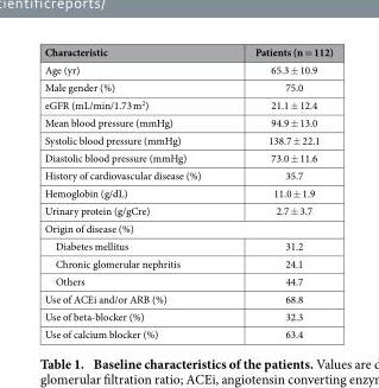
<table><thead><tr><td>Characteristic</td><td>Patients (n = 112)</td></tr></thead><tbody><tr><td>Age (yr)</td><td>65.3 ± 10.9</td></tr><tr><td>Male gender (%)</td><td>75.0</td></tr><tr><td>eGFR (mL/min/1.73 m<sup>2</sup>)</td><td>21.1 ± 12.4</td></tr><tr><td>Mean blood pressure (mmHg)</td><td>94.9 ± 13.0</td></tr><tr><td>Systolic blood pressure (mmHg)</td><td>138.7 ± 22.1</td></tr><tr><td>Diastolic blood pressure (mmHg)</td><td>73.0 ± 11.6</td></tr><tr><td>History of cardiovascular disease (%)</td><td>35.7</td></tr><tr><td>Hemoglobin (g/dL)</td><td>11.0 ± 1.9</td></tr><tr><td>Urinary protein (g/gCre)</td><td>2.7 ± 3.7</td></tr><tr><td colspan="2">Origin of disease (%)</td></tr><tr><td>Diabetes mellitus</td><td>31.2</td></tr><tr><td>Chronic glomerular nephritis</td><td>24.1</td></tr><tr><td>Others</td><td>44.7</td></tr><tr><td>Use of ACEi and/or ARB (%)</td><td>68.8</td></tr><tr><td>Use of beta-blocker (%)</td><td>32.3</td></tr><tr><td>Use of calcium blocker (%)</td><td>63.4</td></tr></tbody></table>